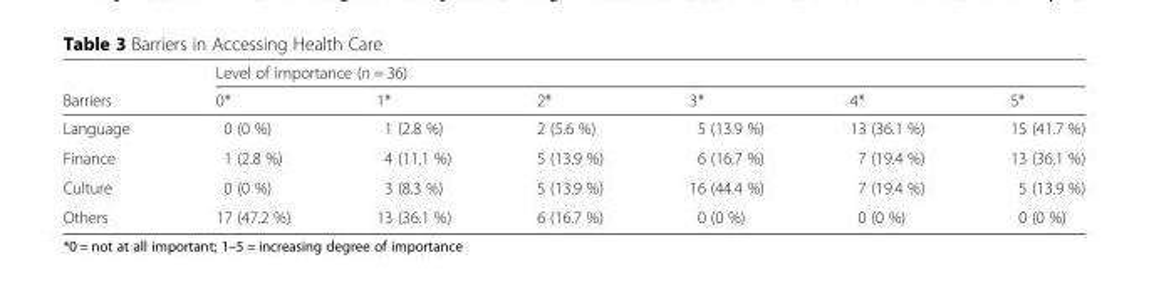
<table><thead><tr><td rowspan="2">Barriers</td><td colspan="6">Level of importance (n = 36)</td></tr><tr><td>0*</td><td>1*</td><td>2*</td><td>3*</td><td>4*</td><td>5*</td></tr></thead><tbody><tr><td>Language</td><td>0 (0 %)</td><td>1 (2.8 %)</td><td>2 (5.6 %)</td><td>5 (13.9 %)</td><td>13 (36.1 %)</td><td>15 (41.7 %)</td></tr><tr><td>Finance</td><td>1 (2.8 %)</td><td>4 (11.1 %)</td><td>5 (13.9 %)</td><td>6 (16.7 %)</td><td>7 (19.4 %)</td><td>13 (36.1 %)</td></tr><tr><td>Culture</td><td>0 (0 %)</td><td>3 (8.3 %)</td><td>5 (13.9 %)</td><td>16 (44.4 %)</td><td>7 (19.4 %)</td><td>5 (13.9 %)</td></tr><tr><td>Others</td><td>17 (47.2 %)</td><td>13 (36.1 %)</td><td>6 (16.7 %)</td><td>0 (0 %)</td><td>0 (0 %)</td><td>0 (0 %)</td></tr></tbody></table>